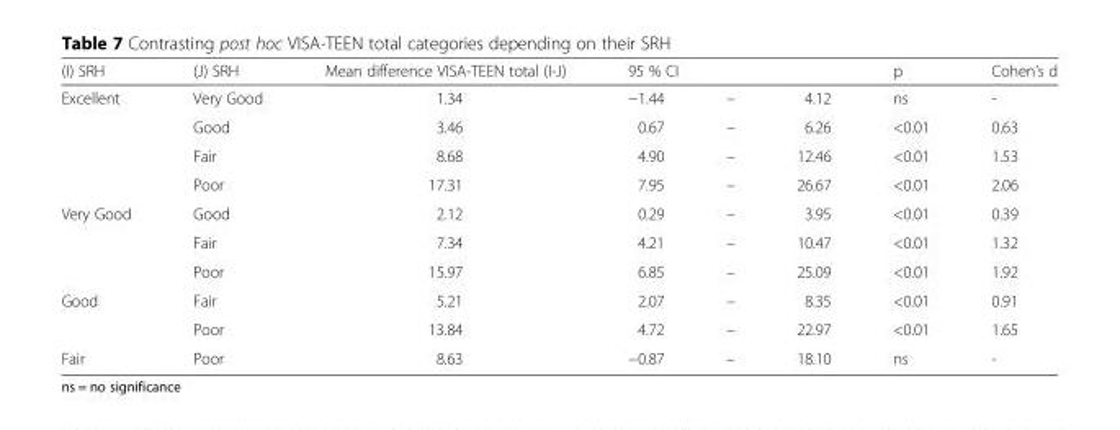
<table><thead><tr><td rowspan="2">(I) SRH Excellent</td><td rowspan="2">(J) SRH Very Good</td><td rowspan="2">Mean difference VISA-TEEN total (I-J) 1.34</td><td colspan="3">95 % CI</td><td rowspan="2">p ns</td><td rowspan="2">Cohen’s d -</td></tr><tr><td>−1.44</td><td>–</td><td>4.12</td></tr></thead><tbody><tr><td></td><td>Good</td><td>3.46</td><td>0.67</td><td>–</td><td>6.26</td><td>&lt;0.01</td><td>0.63</td></tr><tr><td></td><td>Fair</td><td>8.68</td><td>4.90</td><td>–</td><td>12.46</td><td>&lt;0.01</td><td>1.53</td></tr><tr><td></td><td>Poor</td><td>17.31</td><td>7.95</td><td>–</td><td>26.67</td><td>&lt;0.01</td><td>2.06</td></tr><tr><td rowspan="3">Very Good</td><td>Good</td><td>2.12</td><td>0.29</td><td>–</td><td>3.95</td><td>&lt;0.01</td><td>0.39</td></tr><tr><td>Fair</td><td>7.34</td><td>4.21</td><td>–</td><td>10.47</td><td>&lt;0.01</td><td>1.32</td></tr><tr><td>Poor</td><td>15.97</td><td>6.85</td><td>–</td><td>25.09</td><td>&lt;0.01</td><td>1.92</td></tr><tr><td rowspan="2">Good</td><td>Fair</td><td>5.21</td><td>2.07</td><td>–</td><td>8.35</td><td>&lt;0.01</td><td>0.91</td></tr><tr><td>Poor</td><td>13.84</td><td>4.72</td><td>–</td><td>22.97</td><td>&lt;0.01</td><td>1.65</td></tr><tr><td>Fair</td><td>Poor</td><td>8.63</td><td>−0.87</td><td>–</td><td>18.10</td><td>ns</td><td>-</td></tr></tbody></table>